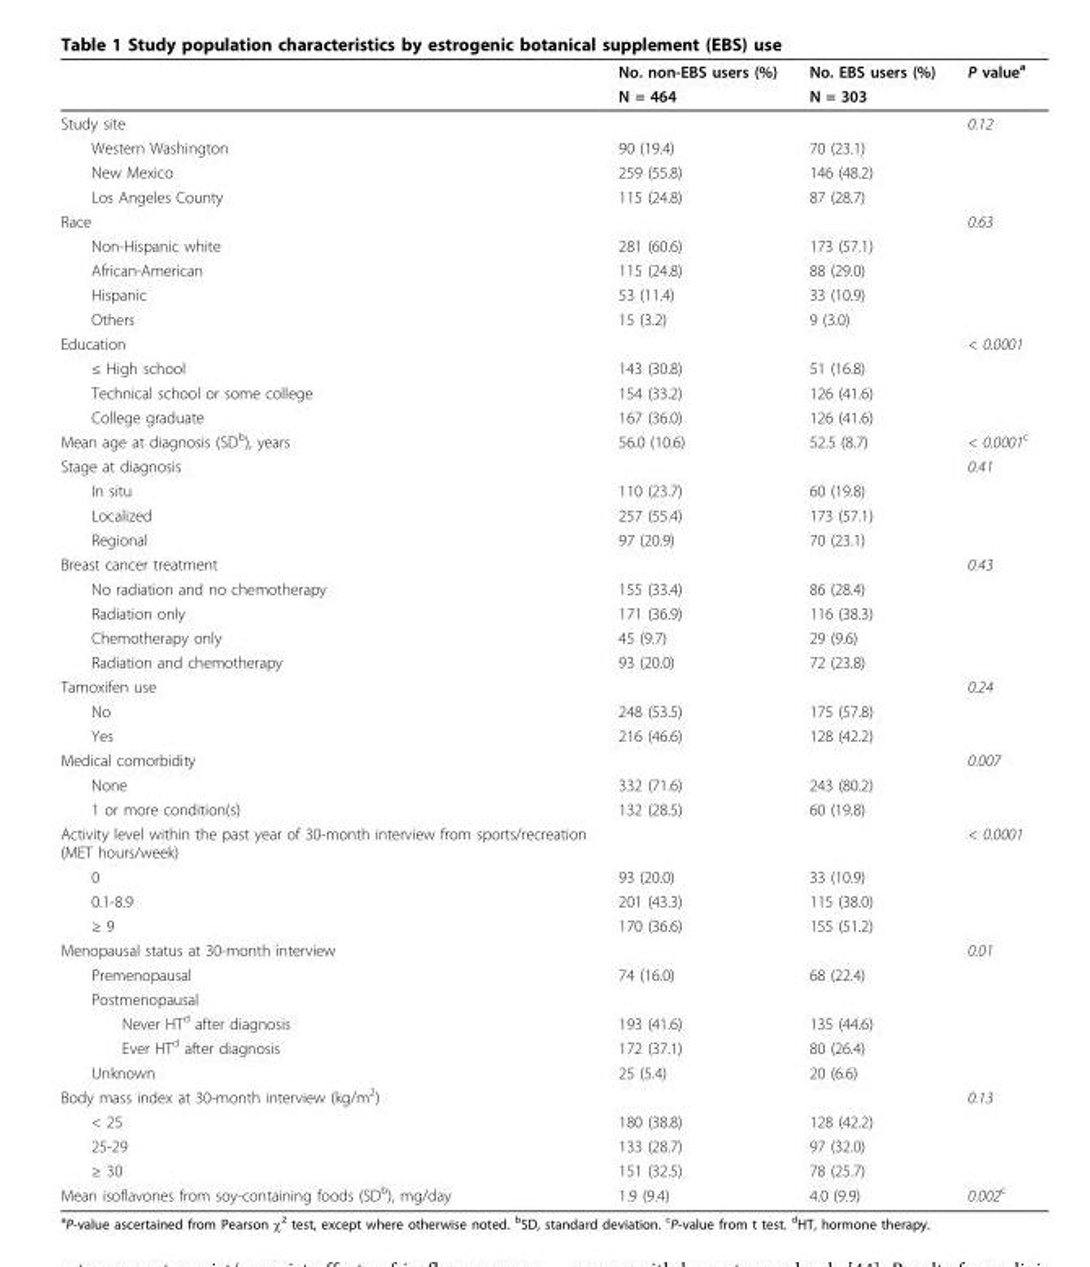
<table><thead><tr><td rowspan="2"></td><td rowspan="2">No. non-EBS users (%) N = 464</td><td rowspan="2">No. EBS users (%) N = 303</td><td rowspan="2">P value<sup>a</sup></td></tr><tr></tr></thead><tbody><tr><td>Study site</td><td></td><td></td><td>0.12</td></tr><tr><td>Western Washington</td><td>90 (19.4)</td><td>70 (23.1)</td><td></td></tr><tr><td>New Mexico</td><td>259 (55.8)</td><td>146 (48.2)</td><td></td></tr><tr><td>Los Angeles County</td><td>115 (24.8)</td><td>87 (28.7)</td><td></td></tr><tr><td>Race</td><td></td><td></td><td>0.63</td></tr><tr><td>Non-Hispanic white</td><td>281 (60.6)</td><td>173 (57.1)</td><td></td></tr><tr><td>African-American</td><td>115 (24.8)</td><td>88 (29.0)</td><td></td></tr><tr><td>Hispanic</td><td>53 (11.4)</td><td>33 (10.9)</td><td></td></tr><tr><td>Others</td><td>15 (3.2)</td><td>9 (3.0)</td><td></td></tr><tr><td>Education</td><td></td><td></td><td>&lt; 0.0001</td></tr><tr><td>≤ High school</td><td>143 (30.8)</td><td>51 (16.8)</td><td></td></tr><tr><td>Technical school or some college</td><td>154 (33.2)</td><td>126 (41.6)</td><td></td></tr><tr><td>College graduate</td><td>167 (36.0)</td><td>126 (41.6)</td><td></td></tr><tr><td>Mean age at diagnosis (SD<sup>b</sup>), years</td><td>56.0 (10.6)</td><td>52.5 (8.7)</td><td>&lt; 0.0001<sup>c</sup></td></tr><tr><td>Stage at diagnosis</td><td></td><td></td><td>0.41</td></tr><tr><td>In situ</td><td>110 (23.7)</td><td>60 (19.8)</td><td></td></tr><tr><td>Localized</td><td>257 (55.4)</td><td>173 (57.1)</td><td></td></tr><tr><td>Regional</td><td>97 (20.9)</td><td>70 (23.1)</td><td></td></tr><tr><td>Breast cancer treatment</td><td></td><td></td><td>0.43</td></tr><tr><td>No radiation and no chemotherapy</td><td>155 (33.4)</td><td>86 (28.4)</td><td></td></tr><tr><td>Radiation only</td><td>171 (36.9)</td><td>116 (38.3)</td><td></td></tr><tr><td>Chemotherapy only</td><td>45 (9.7)</td><td>29 (9.6)</td><td></td></tr><tr><td>Radiation and chemotherapy</td><td>93 (20.0)</td><td>72 (23.8)</td><td></td></tr><tr><td>Tamoxifen use</td><td></td><td></td><td>0.24</td></tr><tr><td>No</td><td>248 (53.5)</td><td>175 (57.8)</td><td></td></tr><tr><td>Yes</td><td>216 (46.6)</td><td>128 (42.2)</td><td></td></tr><tr><td>Medical comorbidity</td><td></td><td></td><td>0.007</td></tr><tr><td>None</td><td>332 (71.6)</td><td>243 (80.2)</td><td></td></tr><tr><td>1 or more condition(s)</td><td>132 (28.5)</td><td>60 (19.8)</td><td></td></tr><tr><td>Activity level within the past year of 30-month interview from sports/recreation (MET hours/week)</td><td></td><td></td><td>&lt; 0.0001</td></tr><tr><td>0</td><td>93 (20.0)</td><td>33 (10.9)</td><td></td></tr><tr><td>0.1-8.9</td><td>201 (43.3)</td><td>115 (38.0)</td><td></td></tr><tr><td>≥ 9</td><td>170 (36.6)</td><td>155 (51.2)</td><td></td></tr><tr><td>Menopausal status at 30-month interview</td><td></td><td></td><td>0.01</td></tr><tr><td>Premenopausal</td><td>74 (16.0)</td><td>68 (22.4)</td><td></td></tr><tr><td colspan="4">Postmenopausal</td></tr><tr><td>Never HT<sup>d</sup> after diagnosis</td><td>193 (41.6)</td><td>135 (44.6)</td><td></td></tr><tr><td>Ever HT<sup>d</sup> after diagnosis</td><td>172 (37.1)</td><td>80 (26.4)</td><td></td></tr><tr><td>Unknown</td><td>25 (5.4)</td><td>20 (6.6)</td><td></td></tr><tr><td>Body mass index at 30-month interview (kg/m<sup>2</sup>)</td><td></td><td></td><td>0.13</td></tr><tr><td>&lt; 25</td><td>180 (38.8)</td><td>128 (42.2)</td><td></td></tr><tr><td>25-29</td><td>133 (28.7)</td><td>97 (32.0)</td><td></td></tr><tr><td>≥ 30</td><td>151 (32.5)</td><td>78 (25.7)</td><td></td></tr><tr><td>Mean isoflavones from soy-containing foods (SD<sup>b</sup>), mg/day</td><td>1.9 (9.4)</td><td>4.0 (9.9)</td><td>0.002<sup>c</sup></td></tr></tbody></table>